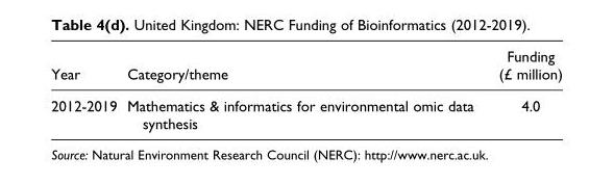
<table><thead><tr><td>Year</td><td>Category/theme</td><td>Funding (£ million)</td></tr></thead><tbody><tr><td>2012-2019</td><td>Mathematics &amp; informatics for environmental omic data synthesis</td><td>4.0</td></tr></tbody></table>